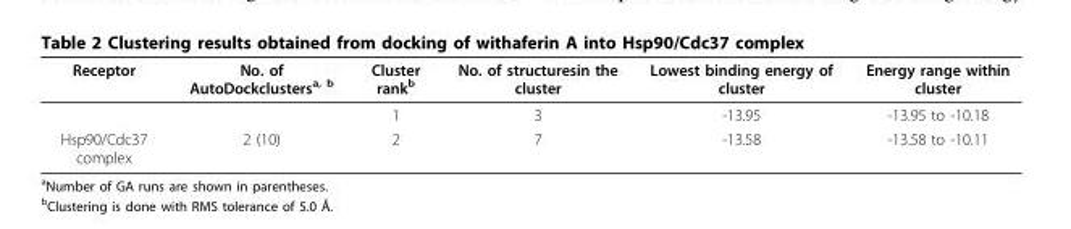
<table><thead><tr><td>Receptor</td><td>No. of AutoDockclusters<sup>a, b</sup></td><td>Cluster rank<sup>b</sup></td><td>No. of structuresin the cluster</td><td>Lowest binding energy of cluster</td><td>Energy range within cluster</td></tr></thead><tbody><tr><td></td><td></td><td>1</td><td>3</td><td>-13.95</td><td>-13.95 to -10.18</td></tr><tr><td>Hsp90/Cdc37 complex</td><td>2 (10)</td><td>2</td><td>7</td><td>-13.58</td><td>-13.58 to -10.11</td></tr></tbody></table>